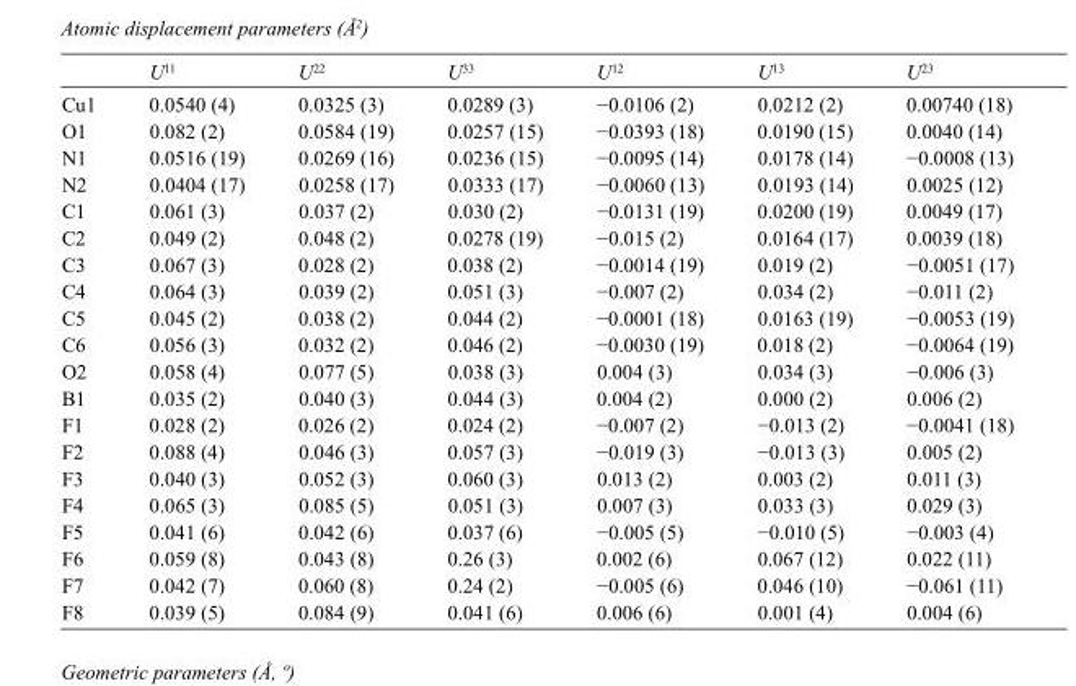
<table><thead><tr><td></td><td>U<sup>11</sup></td><td>U<sup>22</sup></td><td>U<sup>33</sup></td><td>U<sup>12</sup></td><td>U<sup>13</sup></td><td>U<sup>23</sup></td></tr></thead><tbody><tr><td>Cu1</td><td>0.0540 (4)</td><td>0.0325 (3)</td><td>0.0289 (3)</td><td>−0.0106 (2)</td><td>0.0212 (2)</td><td>0.00740 (18)</td></tr><tr><td>O1</td><td>0.082 (2)</td><td>0.0584 (19)</td><td>0.0257 (15)</td><td>−0.0393 (18)</td><td>0.0190 (15)</td><td>0.0040 (14)</td></tr><tr><td>N1</td><td>0.0516 (19)</td><td>0.0269 (16)</td><td>0.0236 (15)</td><td>−0.0095 (14)</td><td>0.0178 (14)</td><td>−0.0008 (13)</td></tr><tr><td>N2</td><td>0.0404 (17)</td><td>0.0258 (17)</td><td>0.0333 (17)</td><td>−0.0060 (13)</td><td>0.0193 (14)</td><td>0.0025 (12)</td></tr><tr><td>C1</td><td>0.061 (3)</td><td>0.037 (2)</td><td>0.030 (2)</td><td>−0.0131 (19)</td><td>0.0200 (19)</td><td>0.0049 (17)</td></tr><tr><td>C2</td><td>0.049 (2)</td><td>0.048 (2)</td><td>0.0278 (19)</td><td>−0.015 (2)</td><td>0.0164 (17)</td><td>0.0039 (18)</td></tr><tr><td>C3</td><td>0.067 (3)</td><td>0.028 (2)</td><td>0.038 (2)</td><td>−0.0014 (19)</td><td>0.019 (2)</td><td>−0.0051 (17)</td></tr><tr><td>C4</td><td>0.064 (3)</td><td>0.039 (2)</td><td>0.051 (3)</td><td>−0.007 (2)</td><td>0.034 (2)</td><td>−0.011 (2)</td></tr><tr><td>C5</td><td>0.045 (2)</td><td>0.038 (2)</td><td>0.044 (2)</td><td>−0.0001 (18)</td><td>0.0163 (19)</td><td>−0.0053 (19)</td></tr><tr><td>C6</td><td>0.056 (3)</td><td>0.032 (2)</td><td>0.046 (2)</td><td>−0.0030 (19)</td><td>0.018 (2)</td><td>−0.0064 (19)</td></tr><tr><td>O2</td><td>0.058 (4)</td><td>0.077 (5)</td><td>0.038 (3)</td><td>0.004 (3)</td><td>0.034 (3)</td><td>−0.006 (3)</td></tr><tr><td>B1</td><td>0.035 (2)</td><td>0.040 (3)</td><td>0.044 (3)</td><td>0.004 (2)</td><td>0.000 (2)</td><td>0.006 (2)</td></tr><tr><td>F1</td><td>0.028 (2)</td><td>0.026 (2)</td><td>0.024 (2)</td><td>−0.007 (2)</td><td>−0.013 (2)</td><td>−0.0041 (18)</td></tr><tr><td>F2</td><td>0.088 (4)</td><td>0.046 (3)</td><td>0.057 (3)</td><td>−0.019 (3)</td><td>−0.013 (3)</td><td>0.005 (2)</td></tr><tr><td>F3</td><td>0.040 (3)</td><td>0.052 (3)</td><td>0.060 (3)</td><td>0.013 (2)</td><td>0.003 (2)</td><td>0.011 (3)</td></tr><tr><td>F4</td><td>0.065 (3)</td><td>0.085 (5)</td><td>0.051 (3)</td><td>0.007 (3)</td><td>0.033 (3)</td><td>0.029 (3)</td></tr><tr><td>F5</td><td>0.041 (6)</td><td>0.042 (6)</td><td>0.037 (6)</td><td>−0.005 (5)</td><td>−0.010 (5)</td><td>−0.003 (4)</td></tr><tr><td>F6</td><td>0.059 (8)</td><td>0.043 (8)</td><td>0.26 (3)</td><td>0.002 (6)</td><td>0.067 (12)</td><td>0.022 (11)</td></tr><tr><td>F7</td><td>0.042 (7)</td><td>0.060 (8)</td><td>0.24 (2)</td><td>−0.005 (6)</td><td>0.046 (10)</td><td>−0.061 (11)</td></tr><tr><td>F8</td><td>0.039 (5)</td><td>0.084 (9)</td><td>0.041 (6)</td><td>0.006 (6)</td><td>0.001 (4)</td><td>0.004 (6)</td></tr></tbody></table>